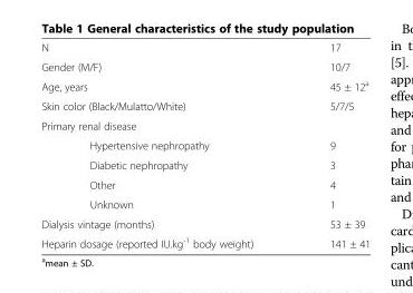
<table><tbody><tr><td>N</td><td>17</td></tr><tr><td>Gender (M/F)</td><td>10/7</td></tr><tr><td>Age, years</td><td>45 ± 12<sup>a</sup></td></tr><tr><td>Skin color (Black/Mulatto/White)</td><td>5/7/5</td></tr><tr><td colspan="2">Primary renal disease</td></tr><tr><td>Hypertensive nephropathy</td><td>9</td></tr><tr><td>Diabetic nephropathy</td><td>3</td></tr><tr><td>Other</td><td>4</td></tr><tr><td>Unknown</td><td>1</td></tr><tr><td>Dialysis vintage (months)</td><td>53 ± 39</td></tr><tr><td>Heparin dosage (reported IU.kg<sup>-1</sup> body weight)</td><td>141 ± 41</td></tr></tbody></table>